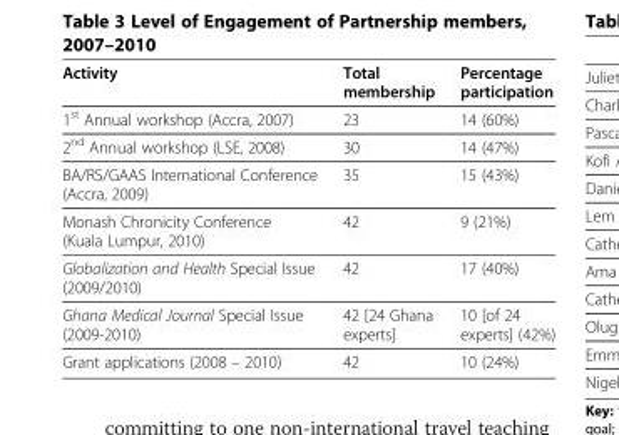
<table><thead><tr><td>Activity</td><td>Total membership</td><td>Percentage participation</td></tr></thead><tbody><tr><td>1<sup>st</sup> Annual workshop (Accra, 2007)</td><td>23</td><td>14 (60%)</td></tr><tr><td>2<sup>nd</sup> Annual workshop (LSE, 2008)</td><td>30</td><td>14 (47%)</td></tr><tr><td>BA/RS/GAAS International Conference (Accra, 2009)</td><td>35</td><td>15 (43%)</td></tr><tr><td>Monash Chronicity Conference (Kuala Lumpur, 2010)</td><td>42</td><td>9 (21%)</td></tr><tr><td>Globalization and Health Special Issue (2009/2010)</td><td>42</td><td>17 (40%)</td></tr><tr><td>Ghana Medical Journal Special Issue (2009-2010)</td><td>42 [24 Ghana experts]</td><td>10 [of 24 experts] (42%)</td></tr><tr><td>Grant applications (2008 – 2010)</td><td>42</td><td>10 (24%)</td></tr></tbody></table>